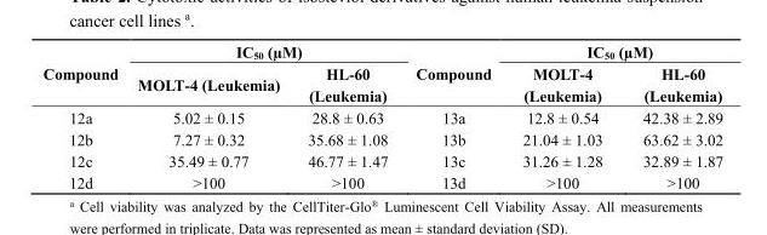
<table><thead><tr><td rowspan="2">Compound</td><td colspan="2">IC<sub>50</sub> (µM)</td><td rowspan="2">Compound</td><td colspan="2">IC<sub>50</sub> (µM)</td></tr><tr><td>MOLT-4 (Leukemia)</td><td>HL-60 (Leukemia)</td><td>MOLT-4 (Leukemia)</td><td>HL-60 (Leukemia)</td></tr></thead><tbody><tr><td>12a</td><td>5.02 ± 0.15</td><td>28.8 ± 0.63</td><td>13a</td><td>12.8 ± 0.54</td><td>42.38 ± 2.89</td></tr><tr><td>12b</td><td>7.27 ± 0.32</td><td>35.68 ± 1.08</td><td>13b</td><td>21.04 ± 1.03</td><td>63.62 ± 3.02</td></tr><tr><td>12c</td><td>35.49 ± 0.77</td><td>46.77 ± 1.47</td><td>13c</td><td>31.26 ± 1.28</td><td>32.89 ± 1.87</td></tr><tr><td>12d</td><td>&gt;100</td><td>&gt;100</td><td>13d</td><td>&gt;100</td><td>&gt;100</td></tr></tbody></table>